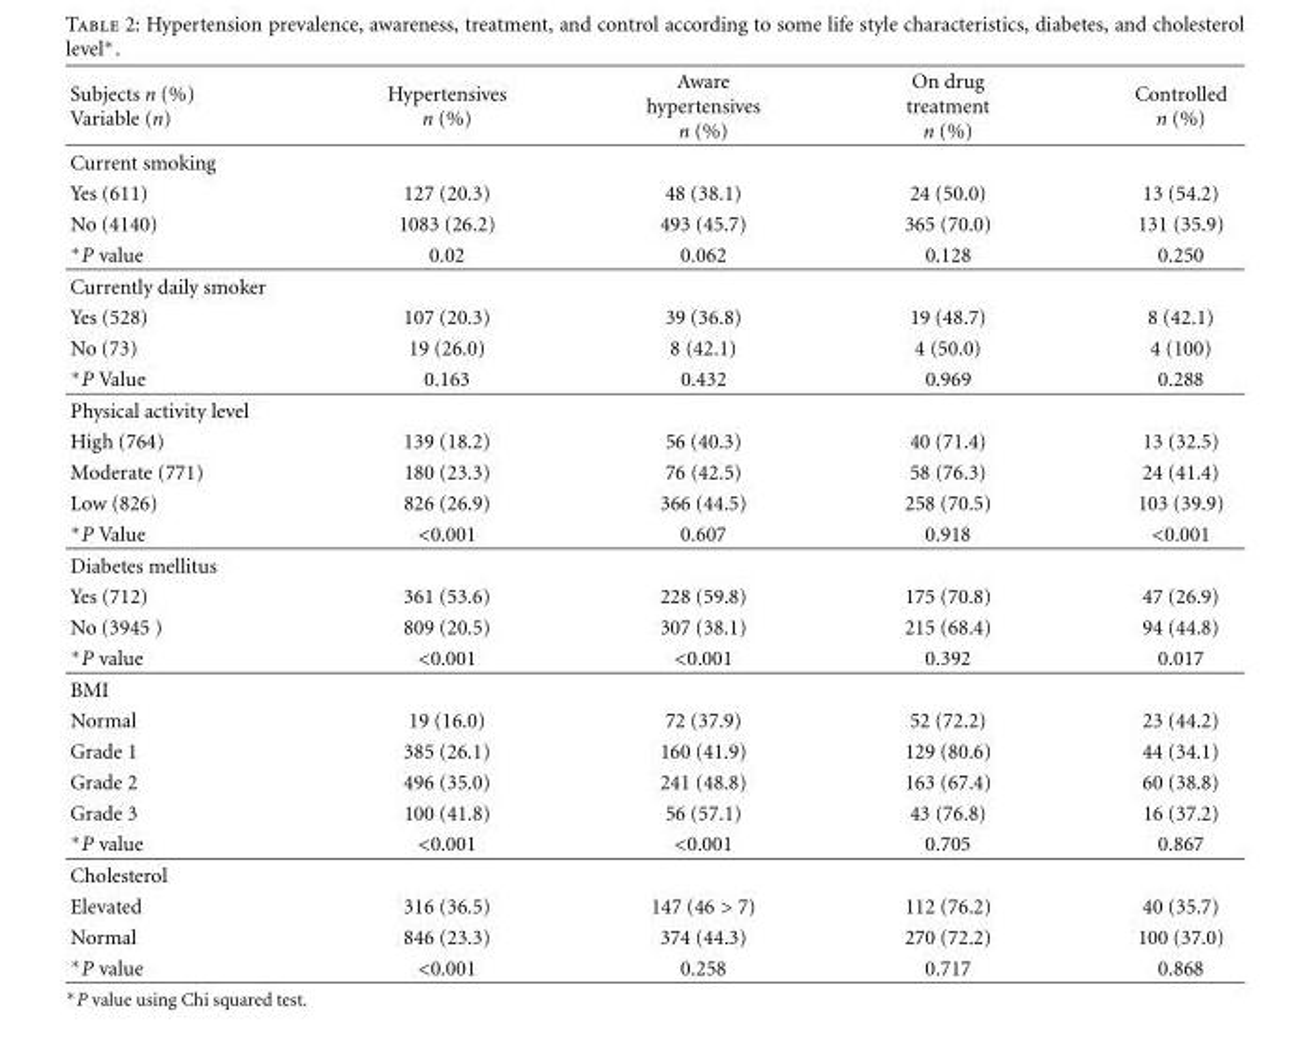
<table><thead><tr><td>Subjects n (%) Variable (n)</td><td>Hypertensives n (%)</td><td>Aware hypertensives n (%)</td><td>On drug treatment n (%)</td><td>Controlled n (%)</td></tr></thead><tbody><tr><td colspan="5">Current smoking</td></tr><tr><td>Yes (611)</td><td>127 (20.3)</td><td>48 (38.1)</td><td>24 (50.0)</td><td>13 (54.2)</td></tr><tr><td>No (4140)</td><td>1083 (26.2)</td><td>493 (45.7)</td><td>365 (70.0)</td><td>131 (35.9)</td></tr><tr><td>∗P value</td><td>0.02</td><td>0.062</td><td>0.128</td><td>0.250</td></tr><tr><td colspan="5">Currently daily smoker</td></tr><tr><td>Yes (528)</td><td>107 (20.3)</td><td>39 (36.8)</td><td>19 (48.7)</td><td>8 (42.1)</td></tr><tr><td>No (73)</td><td>19 (26.0)</td><td>8 (42.1)</td><td>4 (50.0)</td><td>4 (100)</td></tr><tr><td>∗P Value</td><td>0.163</td><td>0.432</td><td>0.969</td><td>0.288</td></tr><tr><td colspan="5">Physical activity level</td></tr><tr><td>High (764)</td><td>139 (18.2)</td><td>56 (40.3)</td><td>40 (71.4)</td><td>13 (32.5)</td></tr><tr><td>Moderate (771)</td><td>180 (23.3)</td><td>76 (42.5)</td><td>58 (76.3)</td><td>24 (41.4)</td></tr><tr><td>Low (826)</td><td>826 (26.9)</td><td>366 (44.5)</td><td>258 (70.5)</td><td>103 (39.9)</td></tr><tr><td>∗P Value</td><td>&lt;0.001</td><td>0.607</td><td>0.918</td><td>&lt;0.001</td></tr><tr><td colspan="5">Diabetes mellitus</td></tr><tr><td>Yes (712)</td><td>361 (53.6)</td><td>228 (59.8)</td><td>175 (70.8)</td><td>47 (26.9)</td></tr><tr><td>No (3945 )</td><td>809 (20.5)</td><td>307 (38.1)</td><td>215 (68.4)</td><td>94 (44.8)</td></tr><tr><td>∗P value</td><td>&lt;0.001</td><td>&lt;0.001</td><td>0.392</td><td>0.017</td></tr><tr><td colspan="5">BMI</td></tr><tr><td>Normal</td><td>19 (16.0)</td><td>72 (37.9)</td><td>52 (72.2)</td><td>23 (44.2)</td></tr><tr><td>Grade 1</td><td>385 (26.1)</td><td>160 (41.9)</td><td>129 (80.6)</td><td>44 (34.1)</td></tr><tr><td>Grade 2</td><td>496 (35.0)</td><td>241 (48.8)</td><td>163 (67.4)</td><td>60 (38.8)</td></tr><tr><td>Grade 3</td><td>100 (41.8)</td><td>56 (57.1)</td><td>43 (76.8)</td><td>16 (37.2)</td></tr><tr><td>∗P value</td><td>&lt;0.001</td><td>&lt;0.001</td><td>0.705</td><td>0.867</td></tr><tr><td colspan="5">Cholesterol</td></tr><tr><td>Elevated</td><td>316 (36.5)</td><td>147 (46 &gt; 7)</td><td>112 (76.2)</td><td>40 (35.7)</td></tr><tr><td>Normal</td><td>846 (23.3)</td><td>374 (44.3)</td><td>270 (72.2)</td><td>100 (37.0)</td></tr><tr><td>∗P value</td><td>&lt;0.001</td><td>0.258</td><td>0.717</td><td>0.868</td></tr></tbody></table>